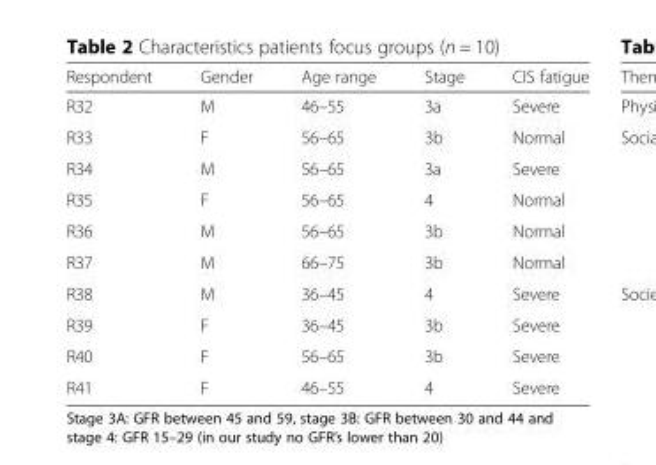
<table><thead><tr><td>Respondent</td><td>Gender</td><td>Age range</td><td>Stage</td><td>CIS fatigue</td></tr></thead><tbody><tr><td>R32</td><td>M</td><td>46–55</td><td>3a</td><td>Severe</td></tr><tr><td>R33</td><td>F</td><td>56–65</td><td>3b</td><td>Normal</td></tr><tr><td>R34</td><td>M</td><td>56–65</td><td>3a</td><td>Severe</td></tr><tr><td>R35</td><td>F</td><td>56–65</td><td>4</td><td>Normal</td></tr><tr><td>R36</td><td>M</td><td>56–65</td><td>3b</td><td>Normal</td></tr><tr><td>R37</td><td>M</td><td>66–75</td><td>3b</td><td>Normal</td></tr><tr><td>R38</td><td>M</td><td>36–45</td><td>4</td><td>Severe</td></tr><tr><td>R39</td><td>F</td><td>36–45</td><td>3b</td><td>Severe</td></tr><tr><td>R40</td><td>F</td><td>56–65</td><td>3b</td><td>Severe</td></tr><tr><td>R41</td><td>F</td><td>46–55</td><td>4</td><td>Severe</td></tr></tbody></table>